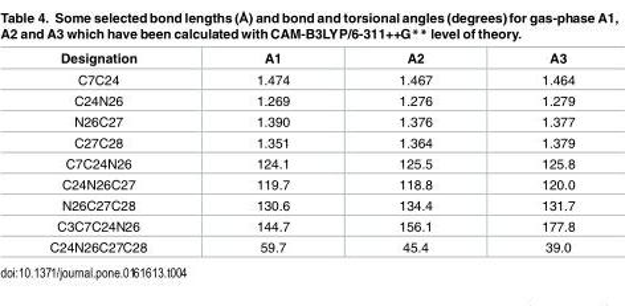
<table><thead><tr><td>Designation</td><td>A1</td><td>A2</td><td>A3</td></tr></thead><tbody><tr><td>C7C24</td><td>1.474</td><td>1.467</td><td>1.464</td></tr><tr><td>C24N26</td><td>1.269</td><td>1.276</td><td>1.279</td></tr><tr><td>N26C27</td><td>1.390</td><td>1.376</td><td>1.377</td></tr><tr><td>C27C28</td><td>1.351</td><td>1.364</td><td>1.379</td></tr><tr><td>C7C24N26</td><td>124.1</td><td>125.5</td><td>125.8</td></tr><tr><td>C24N26C27</td><td>119.7</td><td>118.8</td><td>120.0</td></tr><tr><td>N26C27C28</td><td>130.6</td><td>134.4</td><td>131.7</td></tr><tr><td>C3C7C24N26</td><td>144.7</td><td>156.1</td><td>177.8</td></tr><tr><td>C24N26C27C28</td><td>59.7</td><td>45.4</td><td>39.0</td></tr></tbody></table>